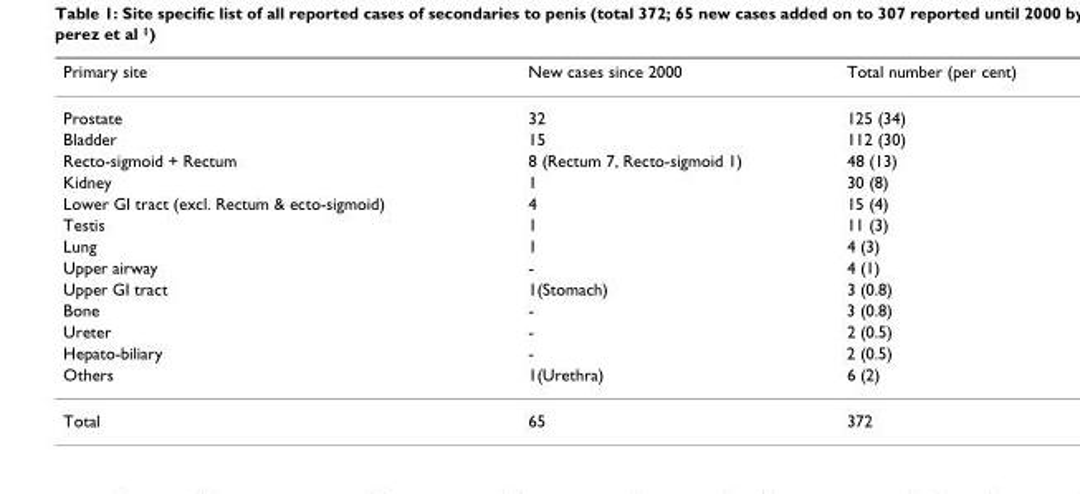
<table><thead><tr><td>Primary site</td><td>New cases since 2000</td><td>Total number (per cent)</td></tr></thead><tbody><tr><td>Prostate</td><td>32</td><td>125 (34)</td></tr><tr><td>Bladder</td><td>15</td><td>112 (30)</td></tr><tr><td>Recto-sigmoid + Rectum</td><td>8 (Rectum 7, Recto-sigmoid 1)</td><td>48 (13)</td></tr><tr><td>Kidney</td><td>1</td><td>30 (8)</td></tr><tr><td>Lower GI tract (excl. Rectum &amp; ecto-sigmoid)</td><td>4</td><td>15 (4)</td></tr><tr><td>Testis</td><td>1</td><td>11 (3)</td></tr><tr><td>Lung</td><td>1</td><td>4 (3)</td></tr><tr><td>Upper airway</td><td>-</td><td>4 (1)</td></tr><tr><td>Upper GI tract</td><td>1(Stomach)</td><td>3 (0.8)</td></tr><tr><td>Bone</td><td>-</td><td>3 (0.8)</td></tr><tr><td>Ureter</td><td>-</td><td>2 (0.5)</td></tr><tr><td>Hepato-biliary</td><td>-</td><td>2 (0.5)</td></tr><tr><td>Others</td><td>1(Urethra)</td><td>6 (2)</td></tr><tr><td>Total</td><td>65</td><td>372</td></tr></tbody></table>